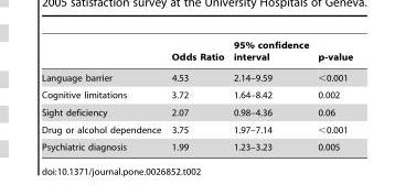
<table><thead><tr><td></td><td>Odds Ratio</td><td>95% confidence interval</td><td>p-value</td></tr></thead><tbody><tr><td>Language barrier</td><td>4.53</td><td>2.14–9.59</td><td>&lt;0.001</td></tr><tr><td>Cognitive limitations</td><td>3.72</td><td>1.64–8.42</td><td>0.002</td></tr><tr><td>Sight deficiency</td><td>2.07</td><td>0.98–4.36</td><td>0.06</td></tr><tr><td>Drug or alcohol dependence</td><td>3.75</td><td>1.97–7.14</td><td>&lt;0.001</td></tr><tr><td>Psychiatric diagnosis</td><td>1.99</td><td>1.23–3.23</td><td>0.005</td></tr></tbody></table>